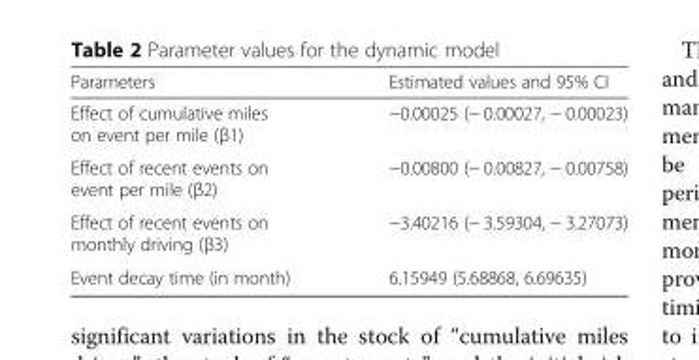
<table><thead><tr><td>Parameters</td><td>Estimated values and 95% CI</td></tr></thead><tbody><tr><td>Effect of cumulative miles on event per mile (β1)</td><td>−0.00025 (− 0.00027, − 0.00023)</td></tr><tr><td>Effect of recent events on event per mile (β2)</td><td>−0.00800 (− 0.00827, − 0.00758)</td></tr><tr><td>Effect of recent events on monthly driving (β3)</td><td>−3.40216 (− 3.59304, − 3.27073)</td></tr><tr><td>Event decay time (in month)</td><td>6.15949 (5.68868, 6.69635)</td></tr></tbody></table>